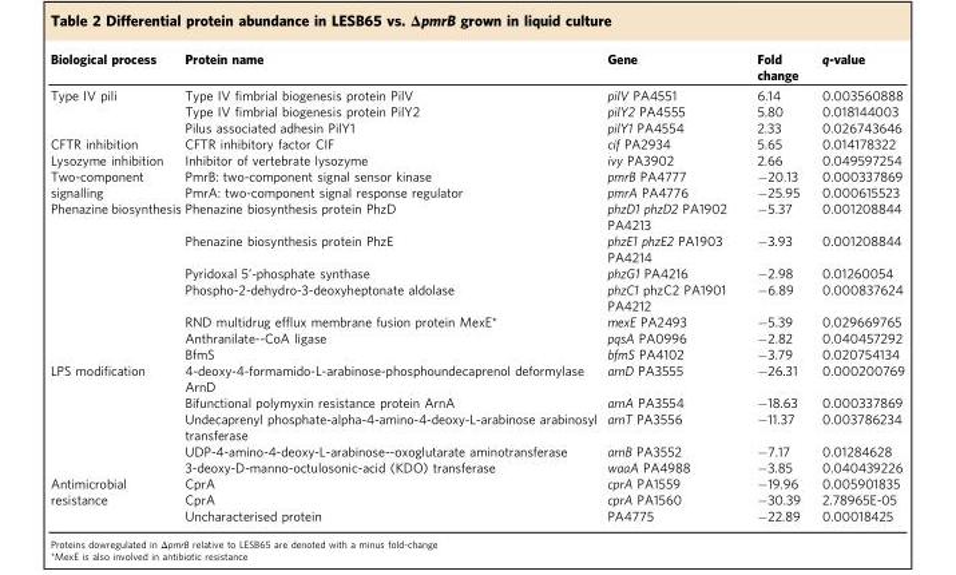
<table><thead><tr><td>Biological process</td><td>Protein name</td><td>Gene</td><td>Fold change</td><td>q-value</td></tr></thead><tbody><tr><td rowspan="3">Type IV pili</td><td>Type IV fimbrial biogenesis protein PilV</td><td>pilV PA4551</td><td>6.14</td><td>0.003560888</td></tr><tr><td>Type IV fimbrial biogenesis protein PilY2</td><td>pilY2 PA4555</td><td>5.80</td><td>0.018144003</td></tr><tr><td>Pilus associated adhesin PilY1</td><td>pilY1 PA4554</td><td>2.33</td><td>0.026743646</td></tr><tr><td>CFTR inhibition</td><td>CFTR inhibitory factor CIF</td><td>cif PA2934</td><td>5.65</td><td>0.014178322</td></tr><tr><td>Lysozyme inhibition</td><td>Inhibitor of vertebrate lysozyme</td><td>ivy PA3902</td><td>2.66</td><td>0.049597254</td></tr><tr><td rowspan="2">Two-component signalling</td><td>PmrB: two-component signal sensor kinase</td><td>pmrB PA4777</td><td>−20.13</td><td>0.000337869</td></tr><tr><td>PmrA: two-component signal response regulator</td><td>pmrA PA4776</td><td>−25.95</td><td>0.000615523</td></tr><tr><td rowspan="7">Phenazine biosynthesis</td><td>Phenazine biosynthesis protein PhzD</td><td>phzD1 phzD2 PA1902 PA4213</td><td>−5.37</td><td>0.001208844</td></tr><tr><td>Phenazine biosynthesis protein PhzE</td><td>phzE1 phzE2 PA1903 PA4214</td><td>−3.93</td><td>0.001208844</td></tr><tr><td>Pyridoxal 5’-phosphate synthase</td><td>phzG1 PA4216</td><td>−2.98</td><td>0.01260054</td></tr><tr><td>Phospho-2-dehydro-3-deoxyheptonate aldolase</td><td>phzC1 phzC2 PA1901 PA4212</td><td>−6.89</td><td>0.000837624</td></tr><tr><td>RND multidrug efflux membrane fusion protein MexE*</td><td>mexE PA2493</td><td>−5.39</td><td>0.029669765</td></tr><tr><td>Anthranilate--CoA ligase</td><td>pqsA PA0996</td><td>−2.82</td><td>0.040457292</td></tr><tr><td>BfmS</td><td>bfmS PA4102</td><td>−3.79</td><td>0.020754134</td></tr><tr><td rowspan="5">LPS modification</td><td>4-deoxy-4-formamido-L-arabinose-phosphoundecaprenol deformylase ArnD</td><td>arnD PA3555</td><td>−26.31</td><td>0.000200769</td></tr><tr><td>Bifunctional polymyxin resistance protein ArnA</td><td>arnA PA3554</td><td>−18.63</td><td>0.000337869</td></tr><tr><td>Undecaprenyl phosphate-alpha-4-amino-4-deoxy-L-arabinose arabinosyl transferase</td><td>arnT PA3556</td><td>−11.37</td><td>0.003786234</td></tr><tr><td>UDP-4-amino-4-deoxy-L-arabinose--oxoglutarate aminotransferase</td><td>arnB PA3552</td><td>−7.17</td><td>0.01284628</td></tr><tr><td>3-deoxy-D-manno-octulosonic-acid (KDO) transferase</td><td>waaA PA4988</td><td>−3.85</td><td>0.040439226</td></tr><tr><td rowspan="3">Antimicrobial resistance</td><td>CprA</td><td>cprA PA1559</td><td>−19.96</td><td>0.005901835</td></tr><tr><td>CprA</td><td>cprA PA1560</td><td>−30.39</td><td>2.78965E-05</td></tr><tr><td>Uncharacterised protein</td><td>PA4775</td><td>−22.89</td><td>0.00018425</td></tr></tbody></table>